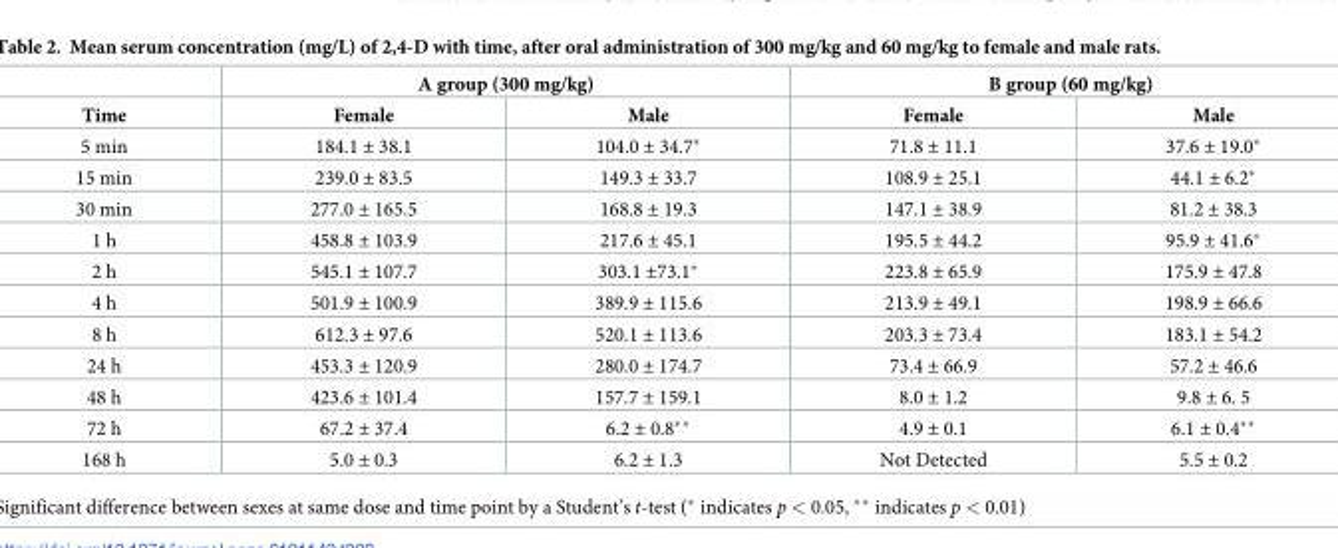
<table><thead><tr><td rowspan="2">Time</td><td colspan="2">A group (300 mg/kg)</td><td colspan="2">B group (60 mg/kg)</td></tr><tr><td>Female</td><td>Male</td><td>Female</td><td>Male</td></tr></thead><tbody><tr><td>5 min</td><td>184.1 ± 38.1</td><td>104.0 ± 34.7*</td><td>71.8 ± 11.1</td><td>37.6 ± 19.0*</td></tr><tr><td>15 min</td><td>239.0 ± 83.5</td><td>149.3 ± 33.7</td><td>108.9 ± 25.1</td><td>44.1 ± 6.2*</td></tr><tr><td>30 min</td><td>277.0 ± 165.5</td><td>168.8 ± 19.3</td><td>147.1 ± 38.9</td><td>81.2 ± 38.3</td></tr><tr><td>1 h</td><td>458.8 ± 103.9</td><td>217.6 ± 45.1</td><td>195.5 ± 44.2</td><td>95.9 ± 41.6*</td></tr><tr><td>2 h</td><td>545.1 ± 107.7</td><td>303.1 ±73.1*</td><td>223.8 ± 65.9</td><td>175.9 ± 47.8</td></tr><tr><td>4 h</td><td>501.9 ± 100.9</td><td>389.9 ± 115.6</td><td>213.9 ± 49.1</td><td>198.9 ± 66.6</td></tr><tr><td>8 h</td><td>612.3 ± 97.6</td><td>520.1 ± 113.6</td><td>203.3 ± 73.4</td><td>183.1 ± 54.2</td></tr><tr><td>24 h</td><td>453.3 ± 120.9</td><td>280.0 ± 174.7</td><td>73.4 ± 66.9</td><td>57.2 ± 46.6</td></tr><tr><td>48 h</td><td>423.6 ± 101.4</td><td>157.7 ± 159.1</td><td>8.0 ± 1.2</td><td>9.8 ± 6. 5</td></tr><tr><td>72 h</td><td>67.2 ± 37.4</td><td>6.2 ± 0.8**</td><td>4.9 ± 0.1</td><td>6.1 ± 0.4**</td></tr><tr><td>168 h</td><td>5.0 ± 0.3</td><td>6.2 ± 1.3</td><td>Not Detected</td><td>5.5 ± 0.2</td></tr></tbody></table>